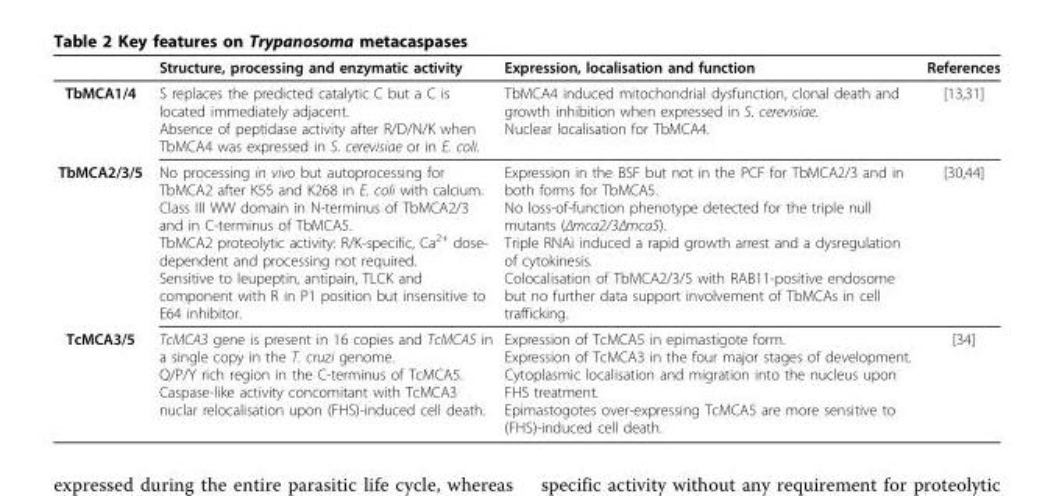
<table><thead><tr><td></td><td>Structure, processing and enzymatic activity</td><td>Expression, localisation and function</td><td>References</td></tr></thead><tbody><tr><td>TbMCA1/4</td><td>S replaces the predicted catalytic C but a C is located immediately adjacent. Absence of peptidase activity after R/D/N/K when TbMCA4 was expressed in S. cerevisiae or in E. coli.</td><td>TbMCA4 induced mitochondrial dysfunction, clonal death and growth inhibition when expressed in S. cerevisiae. Nuclear localisation for TbMCA4.</td><td>[13,31]</td></tr><tr><td>TbMCA2/3/5</td><td>No processing in vivo but autoprocessing for TbMCA2 after K55 and K268 in E. coli with calcium. Class III WW domain in N-terminus of TbMCA2/3 and in C-terminus of TbMCA5. TbMCA2 proteolytic activity: R/K-specific, Ca<sup>2+</sup> dose- dependent and processing not required. Sensitive to leupeptin, antipain, TLCK and component with R in P1 position but insensitive to E64 inhibitor.</td><td>Expression in the BSF but not in the PCF for TbMCA2/3 and in both forms for TbMCA5. No loss-of-function phenotype detected for the triple null mutants (Δmca2/3Δmca5). Triple RNAi induced a rapid growth arrest and a dysregulation of cytokinesis. Colocalisation of TbMCA2/3/5 with RAB11-positive endosome but no further data support involvement of TbMCAs in cell trafficking.</td><td>[30,44]</td></tr><tr><td>TcMCA3/5</td><td>TcMCA3 gene is present in 16 copies and TcMCA5 in a single copy in the T. cruzi genome. Q/P/Y rich region in the C-terminus of TcMCA5. Caspase-like activity concomitant with TcMCA3 nuclar relocalisation upon (FHS)-induced cell death.</td><td>Expression of TcMCA5 in epimastigote form. Expression of TcMCA3 in the four major stages of development. Cytoplasmic localisation and migration into the nucleus upon FHS treatment. Epimastogotes over-expressing TcMCA5 are more sensitive to (FHS)-induced cell death.</td><td>[34]</td></tr></tbody></table>